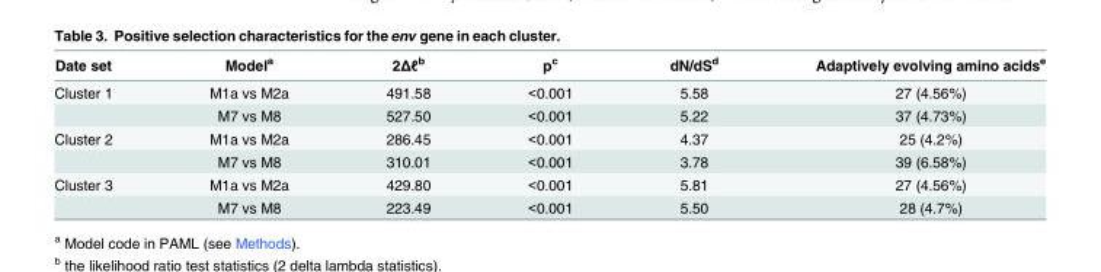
<table><thead><tr><td>Date set</td><td>Model<sup>a</sup></td><td>2Δℓ<sup>b</sup></td><td>p<sup>c</sup></td><td>dN/dS<sup>d</sup></td><td>Adaptively evolving amino acids<sup>e</sup></td></tr></thead><tbody><tr><td rowspan="2">Cluster 1</td><td>M1a vs M2a</td><td>491.58</td><td>&lt;0.001</td><td>5.58</td><td>27 (4.56%)</td></tr><tr><td>M7 vs M8</td><td>527.50</td><td>&lt;0.001</td><td>5.22</td><td>37 (4.73%)</td></tr><tr><td rowspan="2">Cluster 2</td><td>M1a vs M2a</td><td>286.45</td><td>&lt;0.001</td><td>4.37</td><td>25 (4.2%)</td></tr><tr><td>M7 vs M8</td><td>310.01</td><td>&lt;0.001</td><td>3.78</td><td>39 (6.58%)</td></tr><tr><td rowspan="2">Cluster 3</td><td>M1a vs M2a</td><td>429.80</td><td>&lt;0.001</td><td>5.81</td><td>27 (4.56%)</td></tr><tr><td>M7 vs M8</td><td>223.49</td><td>&lt;0.001</td><td>5.50</td><td>28 (4.7%)</td></tr></tbody></table>